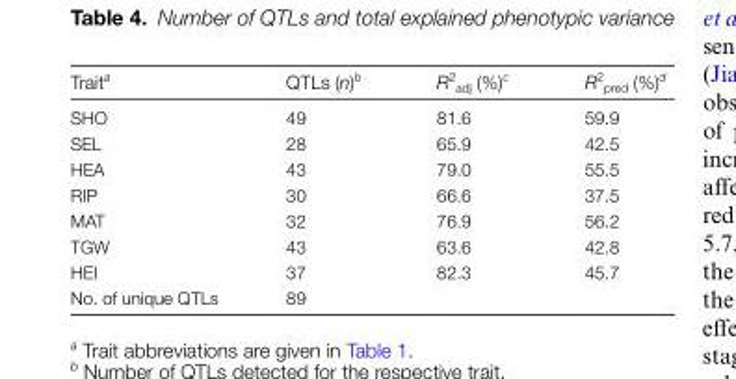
<table><thead><tr><td>Trait<sup>a</sup></td><td>QTLs (n)<sup>b</sup></td><td>R<sup>2</sup> <sub>adj</sub> (%)<sup>c</sup></td><td>R<sup>2</sup> <sub>pred</sub> (%)<sup>d</sup></td></tr></thead><tbody><tr><td>SHO</td><td>49</td><td>81.6</td><td>59.9</td></tr><tr><td>SEL</td><td>28</td><td>65.9</td><td>42.5</td></tr><tr><td>HEA</td><td>43</td><td>79.0</td><td>55.5</td></tr><tr><td>RIP</td><td>30</td><td>66.6</td><td>37.5</td></tr><tr><td>MAT</td><td>32</td><td>76.9</td><td>56.2</td></tr><tr><td>TGW</td><td>43</td><td>63.6</td><td>42.8</td></tr><tr><td>HEI</td><td>37</td><td>82.3</td><td>45.7</td></tr><tr><td>No. of unique QTLs</td><td>89</td><td></td><td></td></tr></tbody></table>